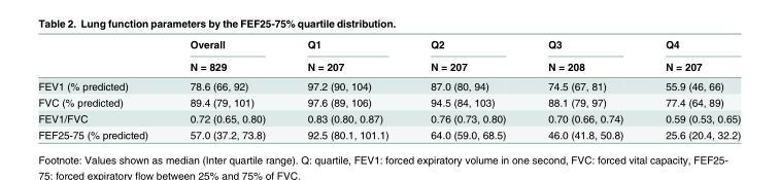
<table><thead><tr><td rowspan="2"></td><td rowspan="2">Overall N = 829</td><td rowspan="2">Q1 N = 207</td><td rowspan="2">Q2 N = 207</td><td rowspan="2">Q3 N = 208</td><td rowspan="2">Q4 N = 207</td></tr><tr></tr></thead><tbody><tr><td>FEV1 (% predicted)</td><td>78.6 (66, 92)</td><td>97.2 (90, 104)</td><td>87.0 (80, 94)</td><td>74.5 (67, 81)</td><td>55.9 (46, 66)</td></tr><tr><td>FVC (% predicted)</td><td>89.4 (79, 101)</td><td>97.6 (89, 106)</td><td>94.5 (84, 103)</td><td>88.1 (79, 97)</td><td>77.4 (64, 89)</td></tr><tr><td>FEV1/FVC</td><td>0.72 (0.65, 0.80)</td><td>0.83 (0.80, 0.87)</td><td>0.76 (0.73, 0.80)</td><td>0.70 (0.66, 0.74)</td><td>0.59 (0.53, 0.65)</td></tr><tr><td>FEF25-75 (% predicted)</td><td>57.0 (37.2, 73.8)</td><td>92.5 (80.1, 101.1)</td><td>64.0 (59.0, 68.5)</td><td>46.0 (41.8, 50.8)</td><td>25.6 (20.4, 32.2)</td></tr></tbody></table>